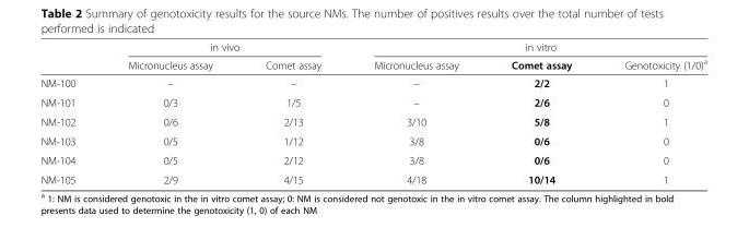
<table><thead><tr><td rowspan="2"></td><td colspan="2">in vivo</td><td colspan="3">in vitro</td></tr><tr><td>Micronucleus assay</td><td>Comet assay</td><td>Micronucleus assay</td><td>Comet assay</td><td>Genotoxicity (1/0)<sup>a</sup></td></tr></thead><tbody><tr><td>NM-100</td><td>–</td><td>–</td><td>–</td><td>2/2</td><td>1</td></tr><tr><td>NM-101</td><td>0/3</td><td>1/5</td><td>–</td><td>2/6</td><td>0</td></tr><tr><td>NM-102</td><td>0/6</td><td>2/13</td><td>3/10</td><td>5/8</td><td>1</td></tr><tr><td>NM-103</td><td>0/5</td><td>1/12</td><td>3/8</td><td>0/6</td><td>0</td></tr><tr><td>NM-104</td><td>0/5</td><td>2/12</td><td>3/8</td><td>0/6</td><td>0</td></tr><tr><td>NM-105</td><td>2/9</td><td>4/15</td><td>4/18</td><td>10/14</td><td>1</td></tr></tbody></table>